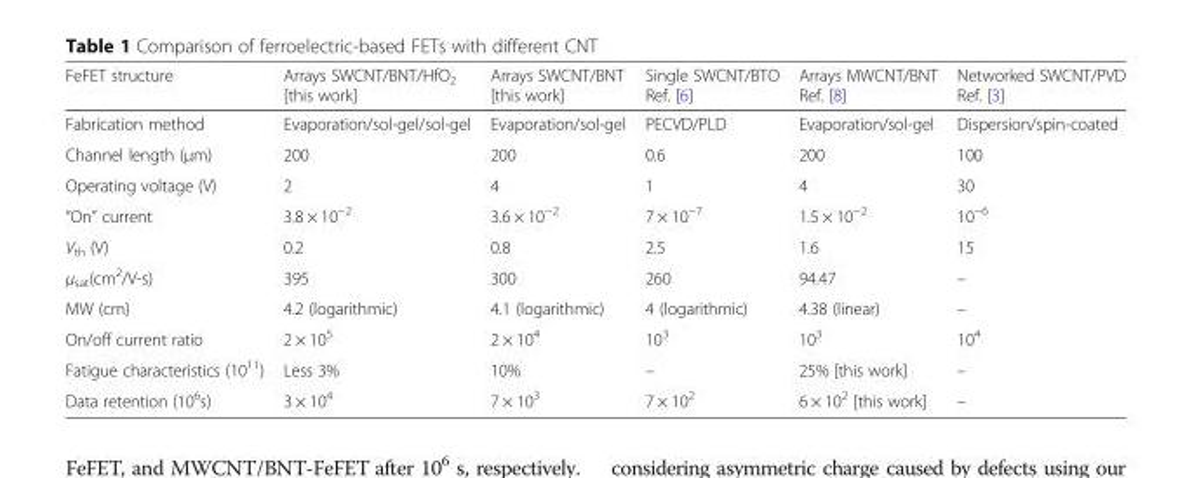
<table><thead><tr><td>FeFET structure</td><td>Arrays SWCNT/BNT/HfO<sub>2</sub> [this work]</td><td>Arrays SWCNT/BNT [this work]</td><td>Single SWCNT/BTO Ref. [6]</td><td>Arrays MWCNT/BNT Ref. [8]</td><td>Networked SWCNT/PVD Ref. [3]</td></tr></thead><tbody><tr><td>Fabrication method</td><td>Evaporation/sol-gel/sol-gel</td><td>Evaporation/sol-gel</td><td>PECVD/PLD</td><td>Evaporation/sol-gel</td><td>Dispersion/spin-coated</td></tr><tr><td>Channel length (μm)</td><td>200</td><td>200</td><td>0.6</td><td>200</td><td>100</td></tr><tr><td>Operating voltage (V)</td><td>2</td><td>4</td><td>1</td><td>4</td><td>30</td></tr><tr><td>“On” current</td><td>3.8 × 10<sup>−2</sup></td><td>3.6 × 10<sup>−2</sup></td><td>7 × 10<sup>−7</sup></td><td>1.5 × 10<sup>−2</sup></td><td>10<sup>−6</sup></td></tr><tr><td>V<sub>th</sub> (V)</td><td>0.2</td><td>0.8</td><td>2.5</td><td>1.6</td><td>15</td></tr><tr><td>μ<sub>sat</sub>(cm<sup>2</sup>/V-s)</td><td>395</td><td>300</td><td>260</td><td>94.47</td><td>–</td></tr><tr><td>MW (cm)</td><td>4.2 (logarithmic)</td><td>4.1 (logarithmic)</td><td>4 (logarithmic)</td><td>4.38 (linear)</td><td>–</td></tr><tr><td>On/off current ratio</td><td>2 × 10<sup>5</sup></td><td>2 × 10<sup>4</sup></td><td>10<sup>3</sup></td><td>10<sup>3</sup></td><td>10<sup>4</sup></td></tr><tr><td>Fatigue characteristics (10<sup>11</sup>)</td><td>Less 3%</td><td>10%</td><td>–</td><td>25% [this work]</td><td>–</td></tr><tr><td>Data retention (10<sup>6</sup>s)</td><td>3 × 10<sup>4</sup></td><td>7 × 10<sup>3</sup></td><td>7 × 10<sup>2</sup></td><td>6 × 10<sup>2</sup> [this work]</td><td>–</td></tr></tbody></table>